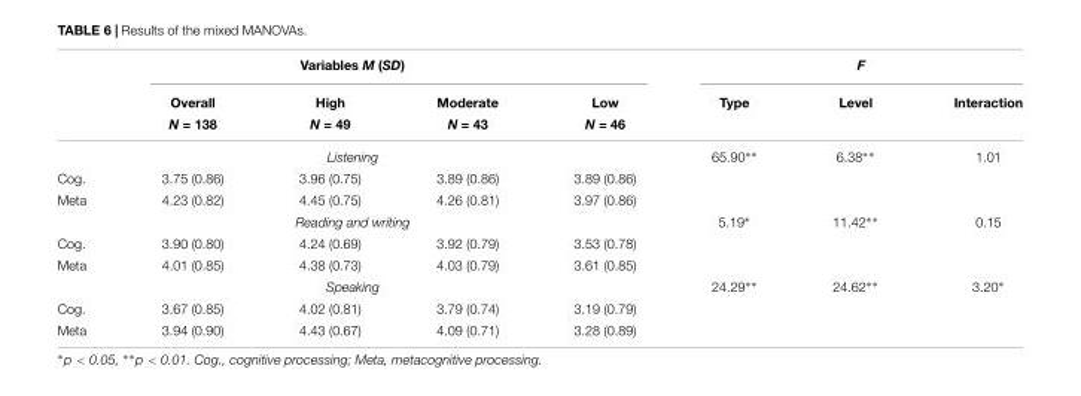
<table><thead><tr><td rowspan="3"></td><td colspan="4">Variables M (SD)</td><td colspan="3">F</td></tr><tr><td rowspan="2">Overall N = 138</td><td rowspan="2">High N = 49</td><td rowspan="2">Moderate N = 43</td><td rowspan="2">Low N = 46</td><td rowspan="2">Type</td><td rowspan="2">Level</td><td rowspan="2">Interaction</td></tr><tr></tr></thead><tbody><tr><td></td><td colspan="4">Listening</td><td>65.90∗∗</td><td>6.38∗∗</td><td>1.01</td></tr><tr><td>Cog.</td><td>3.75 (0.86)</td><td>3.96 (0.75)</td><td>3.89 (0.86)</td><td>3.89 (0.86)</td><td></td><td></td><td></td></tr><tr><td rowspan="2">Meta</td><td>4.23 (0.82)</td><td>4.45 (0.75)</td><td>4.26 (0.81)</td><td>3.97 (0.86)</td><td></td><td></td><td></td></tr><tr><td colspan="4">Reading and writing</td><td>5.19∗</td><td>11.42∗∗</td><td>0.15</td></tr><tr><td>Cog.</td><td>3.90 (0.80)</td><td>4.24 (0.69)</td><td>3.92 (0.79)</td><td>3.53 (0.78)</td><td></td><td></td><td></td></tr><tr><td rowspan="2">Meta</td><td>4.01 (0.85)</td><td>4.38 (0.73)</td><td>4.03 (0.79)</td><td>3.61 (0.85)</td><td></td><td></td><td></td></tr><tr><td colspan="4">Speaking</td><td>24.29∗∗</td><td>24.62∗∗</td><td>3.20∗</td></tr><tr><td>Cog.</td><td>3.67 (0.85)</td><td>4.02 (0.81)</td><td>3.79 (0.74)</td><td>3.19 (0.79)</td><td></td><td></td><td></td></tr><tr><td>Meta</td><td>3.94 (0.90)</td><td>4.43 (0.67)</td><td>4.09 (0.71)</td><td>3.28 (0.89)</td><td></td><td></td><td></td></tr></tbody></table>